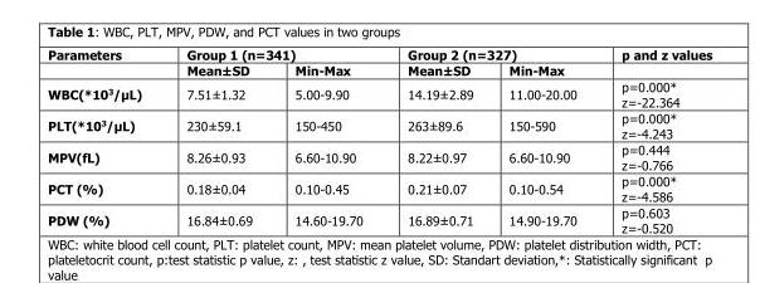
<table><thead><tr><td rowspan="2">Parameters</td><td colspan="2">Group 1 (n=341)</td><td colspan="2">Group 2 (n=327)</td><td rowspan="2">p and z values</td></tr><tr><td>Mean±SD</td><td>Min-Max</td><td>Mean±SD</td><td>Min-Max</td></tr></thead><tbody><tr><td>WBC(*10<sup>3</sup>/µL)</td><td>7.51±1.32</td><td>5.00-9.90</td><td>14.19±2.89</td><td>11.00-20.00</td><td>p=0.000* z=-22.364</td></tr><tr><td>PLT(*10<sup>3</sup>/µL)</td><td>230±59.1</td><td>150-450</td><td>263±89.6</td><td>150-590</td><td>p=0.000* z=-4.243</td></tr><tr><td>MPV(fL)</td><td>8.26±0.93</td><td>6.60-10.90</td><td>8.22±0.97</td><td>6.60-10.90</td><td>p=0.444 z=-0.766</td></tr><tr><td>PCT (%)</td><td>0.18±0.04</td><td>0.10-0.45</td><td>0.21±0.07</td><td>0.10-0.54</td><td>p=0.000* z=-4.586</td></tr><tr><td>PDW (%)</td><td>16.84±0.69</td><td>14.60-19.70</td><td>16.89±0.71</td><td>14.90-19.70</td><td>p=0.603 z=-0.520</td></tr></tbody></table>